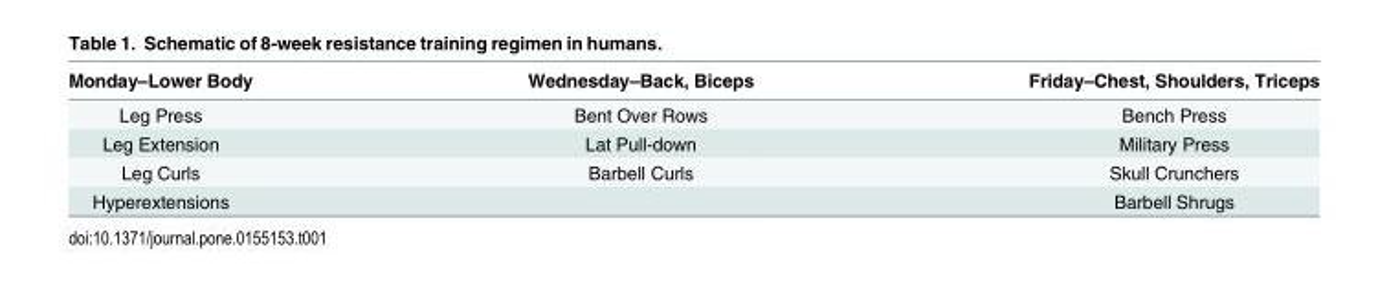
<table><thead><tr><td>Monday–Lower Body</td><td>Wednesday–Back, Biceps</td><td>Friday–Chest, Shoulders, Triceps</td></tr></thead><tbody><tr><td>Leg Press</td><td>Bent Over Rows</td><td>Bench Press</td></tr><tr><td>Leg Extension</td><td>Lat Pull-down</td><td>Military Press</td></tr><tr><td>Leg Curls</td><td>Barbell Curls</td><td>Skull Crunchers</td></tr><tr><td>Hyperextensions</td><td></td><td>Barbell Shrugs</td></tr></tbody></table>